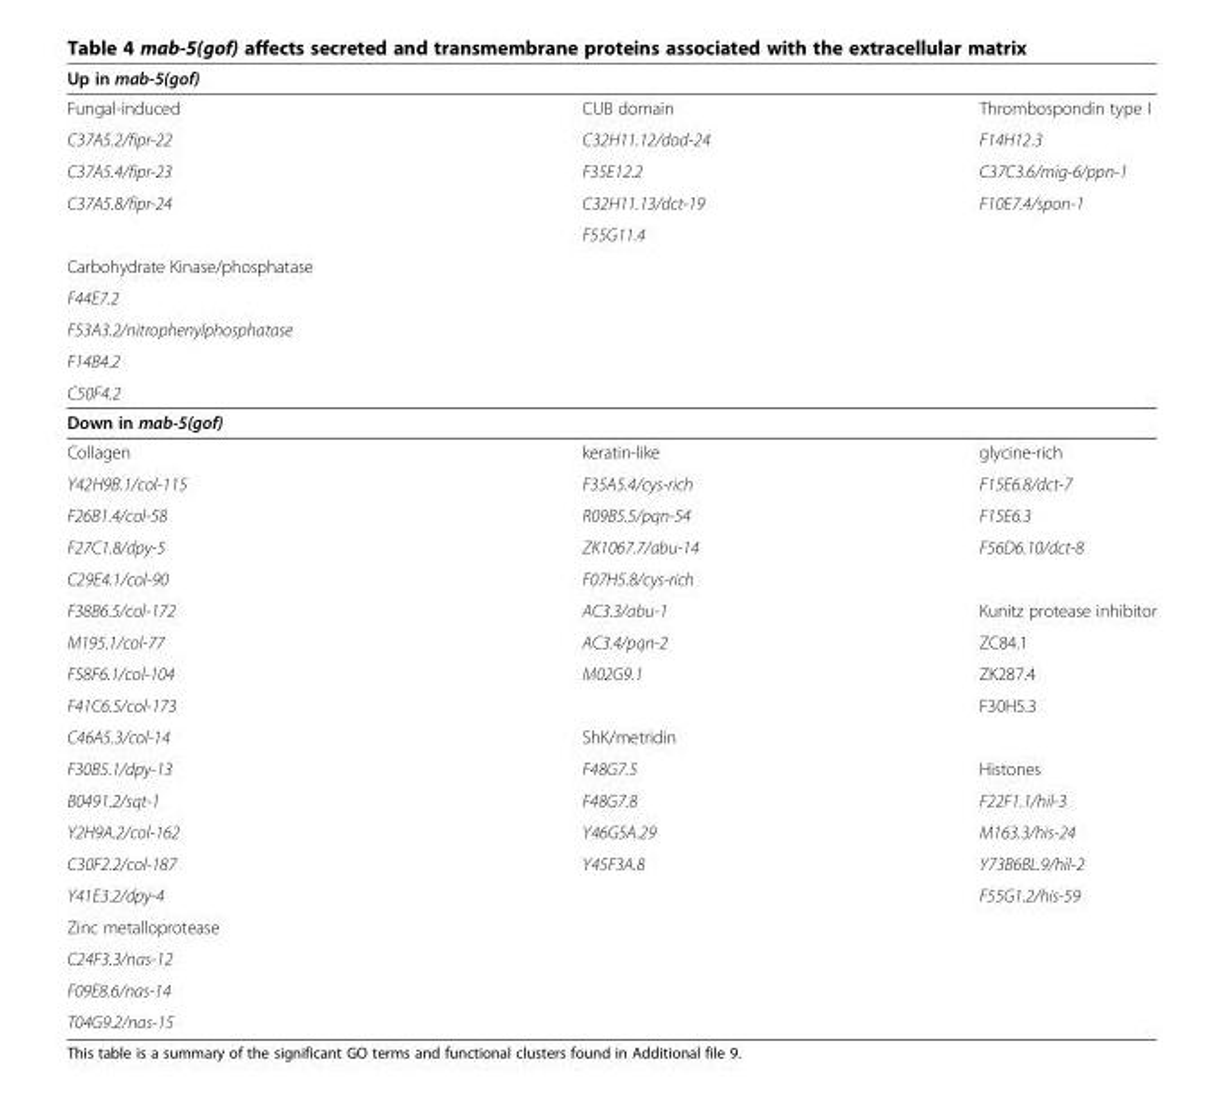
<table><thead><tr><td>Up in mab-5(gof)</td><td></td><td></td></tr></thead><tbody><tr><td>Fungal-induced</td><td>CUB domain</td><td>Thrombospondin type I</td></tr><tr><td>C37A5.2/fipr-22</td><td>C32H11.12/dod-24</td><td>F14H12.3</td></tr><tr><td>C37A5.4/fipr-23</td><td>F35E12.2</td><td>C37C3.6/mig-6/ppn-1</td></tr><tr><td rowspan="2">C37A5.8/fipr-24</td><td>C32H11.13/dct-19</td><td>F10E7.4/spon-1</td></tr><tr><td>F55G11.4</td><td></td></tr><tr><td colspan="3">Carbohydrate Kinase/phosphatase</td></tr><tr><td colspan="3">F44E7.2</td></tr><tr><td colspan="3">F53A3.2/nitrophenylphosphatase</td></tr><tr><td colspan="3">F14B4.2</td></tr><tr><td colspan="3">C50F4.2</td></tr><tr><td colspan="3">Down in mab-5(gof)</td></tr><tr><td>Collagen</td><td>keratin-like</td><td>glycine-rich</td></tr><tr><td>Y42H9B.1/col-115</td><td>F35A5.4/cys-rich</td><td>F15E6.8/dct-7</td></tr><tr><td>F26B1.4/col-58</td><td>R09B5.5/pqn-54</td><td>F15E6.3</td></tr><tr><td>F27C1.8/dpy-5</td><td>ZK1067.7/abu-14</td><td>F56D6.10/dct-8</td></tr><tr><td>C29E4.1/col-90</td><td>F07H5.8/cys-rich</td><td></td></tr><tr><td>F38B6.5/col-172</td><td>AC3.3/abu-1</td><td>Kunitz protease inhibitor</td></tr><tr><td>M195.1/col-77</td><td>AC3.4/pqn-2</td><td>ZC84.1</td></tr><tr><td>F58F6.1/col-104</td><td>M02G9.1</td><td>ZK287.4</td></tr><tr><td>F41C6.5/col-173</td><td></td><td>F30H5.3</td></tr><tr><td>C46A5.3/col-14</td><td>ShK/metridin</td><td></td></tr><tr><td>F30B5.1/dpy-13</td><td>F48G7.5</td><td>Histones</td></tr><tr><td>B0491.2/sqt-1</td><td>F48G7.8</td><td>F22F1.1/hil-3</td></tr><tr><td>Y2H9A.2/col-162</td><td>Y46G5A.29</td><td>M163.3/his-24</td></tr><tr><td>C30F2.2/col-187</td><td>Y45F3A.8</td><td>Y73B6BL.9/hil-2</td></tr><tr><td>Y41E3.2/dpy-4</td><td></td><td>F55G1.2/his-59</td></tr><tr><td colspan="3">Zinc metalloprotease</td></tr><tr><td colspan="3">C24F3.3/nas-12</td></tr><tr><td colspan="3">F09E8.6/nas-14</td></tr><tr><td>T04G9.2/nas-15</td><td></td><td></td></tr></tbody></table>